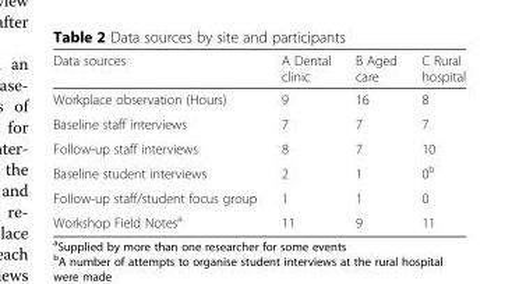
<table><thead><tr><td>Data sources</td><td>A Dental clinic</td><td>B Aged care</td><td>C Rural hospital</td></tr></thead><tbody><tr><td>Workplace observation (Hours)</td><td>9</td><td>16</td><td>8</td></tr><tr><td>Baseline staff interviews</td><td>7</td><td>7</td><td>7</td></tr><tr><td>Follow-up staff interviews</td><td>8</td><td>7</td><td>10</td></tr><tr><td>Baseline student interviews</td><td>2</td><td>1</td><td>0<sup>b</sup></td></tr><tr><td>Follow-up staff/student focus group</td><td>1</td><td>1</td><td>0</td></tr><tr><td>Workshop Field Notes<sup>a</sup></td><td>11</td><td>9</td><td>11</td></tr></tbody></table>